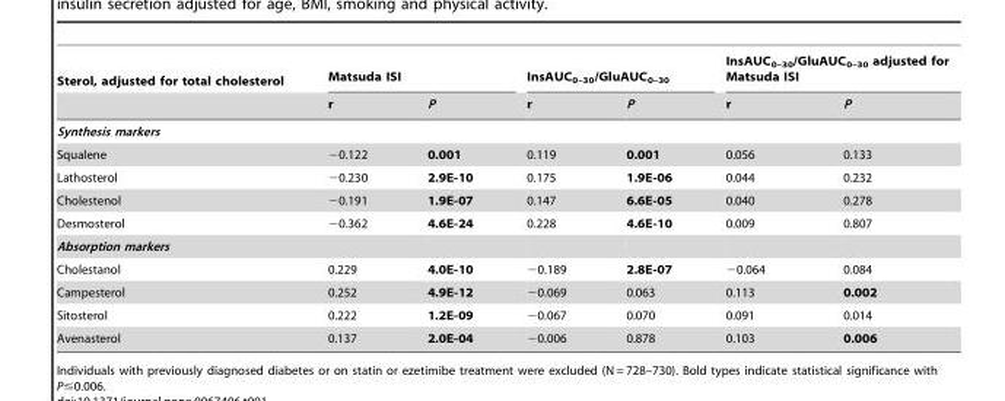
<table><thead><tr><td rowspan="2">Sterol, adjusted for total cholesterol</td><td colspan="2">Matsuda ISI</td><td colspan="2">InsAUC<sub>0–30</sub>/GluAUC<sub>0–30</sub></td><td colspan="2">InsAUC<sub>0–30</sub>/GluAUC<sub>0–30</sub> adjusted for Matsuda ISI</td></tr><tr><td>r</td><td>P</td><td>r</td><td>P</td><td>r</td><td>P</td></tr></thead><tbody><tr><td colspan="7">Synthesis markers</td></tr><tr><td>Squalene</td><td>−0.122</td><td>0.001</td><td>0.119</td><td>0.001</td><td>0.056</td><td>0.133</td></tr><tr><td>Lathosterol</td><td>−0.230</td><td>2.9E-10</td><td>0.175</td><td>1.9E-06</td><td>0.044</td><td>0.232</td></tr><tr><td>Cholestenol</td><td>−0.191</td><td>1.9E-07</td><td>0.147</td><td>6.6E-05</td><td>0.040</td><td>0.278</td></tr><tr><td>Desmosterol</td><td>−0.362</td><td>4.6E-24</td><td>0.228</td><td>4.6E-10</td><td>0.009</td><td>0.807</td></tr><tr><td colspan="7">Absorption markers</td></tr><tr><td>Cholestanol</td><td>0.229</td><td>4.0E-10</td><td>−0.189</td><td>2.8E-07</td><td>−0.064</td><td>0.084</td></tr><tr><td>Campesterol</td><td>0.252</td><td>4.9E-12</td><td>−0.069</td><td>0.063</td><td>0.113</td><td>0.002</td></tr><tr><td>Sitosterol</td><td>0.222</td><td>1.2E-09</td><td>−0.067</td><td>0.070</td><td>0.091</td><td>0.014</td></tr><tr><td>Avenasterol</td><td>0.137</td><td>2.0E-04</td><td>−0.006</td><td>0.878</td><td>0.103</td><td>0.006</td></tr></tbody></table>